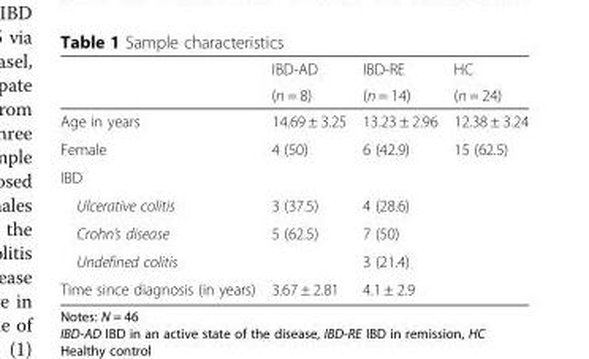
<table><thead><tr><td rowspan="2"></td><td rowspan="2">IBD-AD (n = 8)</td><td rowspan="2">IBD-RE (n = 14)</td><td rowspan="2">HC (n = 24)</td></tr><tr></tr></thead><tbody><tr><td>Age in years</td><td>14.69 ± 3.25</td><td>13.23 ± 2.96</td><td>12.38 ± 3.24</td></tr><tr><td>Female</td><td>4 (50)</td><td>6 (42.9)</td><td>15 (62.5)</td></tr><tr><td colspan="4">IBD</td></tr><tr><td>Ulcerative colitis</td><td>3 (37.5)</td><td>4 (28.6)</td><td></td></tr><tr><td>Crohn’s disease</td><td>5 (62.5)</td><td>7 (50)</td><td></td></tr><tr><td>Undefined colitis</td><td></td><td>3 (21.4)</td><td></td></tr><tr><td>Time since diagnosis (in years)</td><td>3.67 ± 2.81</td><td>4.1 ± 2.9</td><td></td></tr></tbody></table>